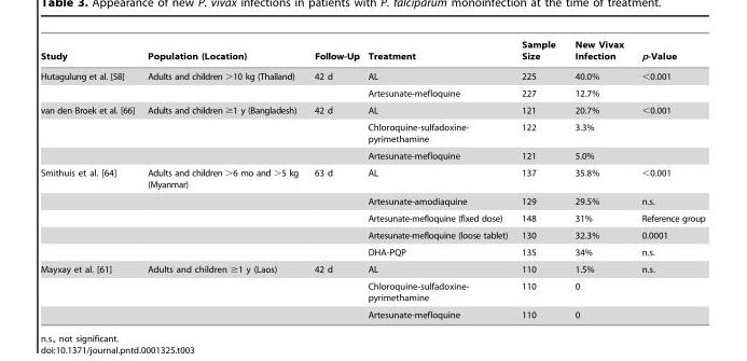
<table><thead><tr><td>Study</td><td>Population (Location)</td><td>Follow-Up</td><td>Treatment</td><td>Sample Size</td><td>New Vivax Infection</td><td>p-Value</td></tr></thead><tbody><tr><td rowspan="2">Hutagulung et al. [58]</td><td>Adults and children &gt;10 kg (Thailand)</td><td>42 d</td><td>AL</td><td>225</td><td>40.0%</td><td>&lt;0.001</td></tr><tr><td></td><td></td><td>Artesunate-mefloquine</td><td>227</td><td>12.7%</td><td></td></tr><tr><td rowspan="3">van den Broek et al. [66]</td><td>Adults and children ≥1 y (Bangladesh)</td><td>42 d</td><td>AL</td><td>121</td><td>20.7%</td><td>&lt;0.001</td></tr><tr><td></td><td></td><td>Chloroquine-sulfadoxine- pyrimethamine</td><td>122</td><td>3.3%</td><td></td></tr><tr><td></td><td></td><td>Artesunate-mefloquine</td><td>121</td><td>5.0%</td><td></td></tr><tr><td rowspan="5">Smithuis et al. [64]</td><td>Adults and children &gt;6 mo and &gt;5 kg (Myanmar)</td><td>63 d</td><td>AL</td><td>137</td><td>35.8%</td><td>&lt;0.001</td></tr><tr><td></td><td></td><td>Artesunate-amodiaquine</td><td>129</td><td>29.5%</td><td>n.s.</td></tr><tr><td></td><td></td><td>Artesunate-mefloquine (fixed dose)</td><td>148</td><td>31%</td><td>Reference group</td></tr><tr><td></td><td></td><td>Artesunate-mefloquine (loose tablet)</td><td>130</td><td>32.3%</td><td>0.0001</td></tr><tr><td></td><td></td><td>DHA-PQP</td><td>135</td><td>34%</td><td>n.s.</td></tr><tr><td rowspan="3">Mayxay et al. [61]</td><td>Adults and children ≥1 y (Laos)</td><td>42 d</td><td>AL</td><td>110</td><td>1.5%</td><td>n.s.</td></tr><tr><td></td><td></td><td>Chloroquine-sulfadoxine- pyrimethamine</td><td>110</td><td>0</td><td></td></tr><tr><td></td><td></td><td>Artesunate-mefloquine</td><td>110</td><td>0</td><td></td></tr></tbody></table>